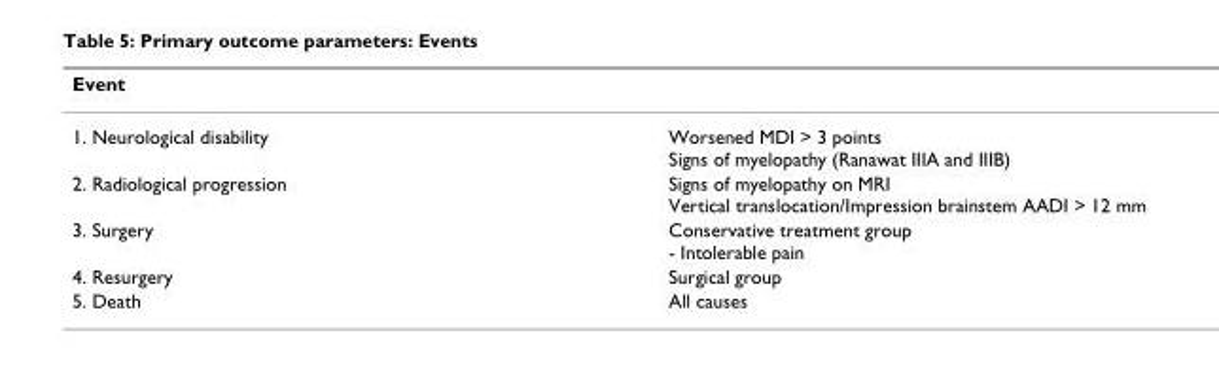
<table><thead><tr><td>Event</td><td></td></tr></thead><tbody><tr><td>1. Neurological disability</td><td>Worsened MDI &gt; 3 points Signs of myelopathy (Ranawat IIIA and IIIB)</td></tr><tr><td>2. Radiological progression</td><td>Signs of myelopathy on MRI Vertical translocation/Impression brainstem AADI &gt; 12 mm</td></tr><tr><td>3. Surgery</td><td>Conservative treatment group - Intolerable pain</td></tr><tr><td>4. Resurgery</td><td>Surgical group</td></tr><tr><td>5. Death</td><td>All causes</td></tr></tbody></table>